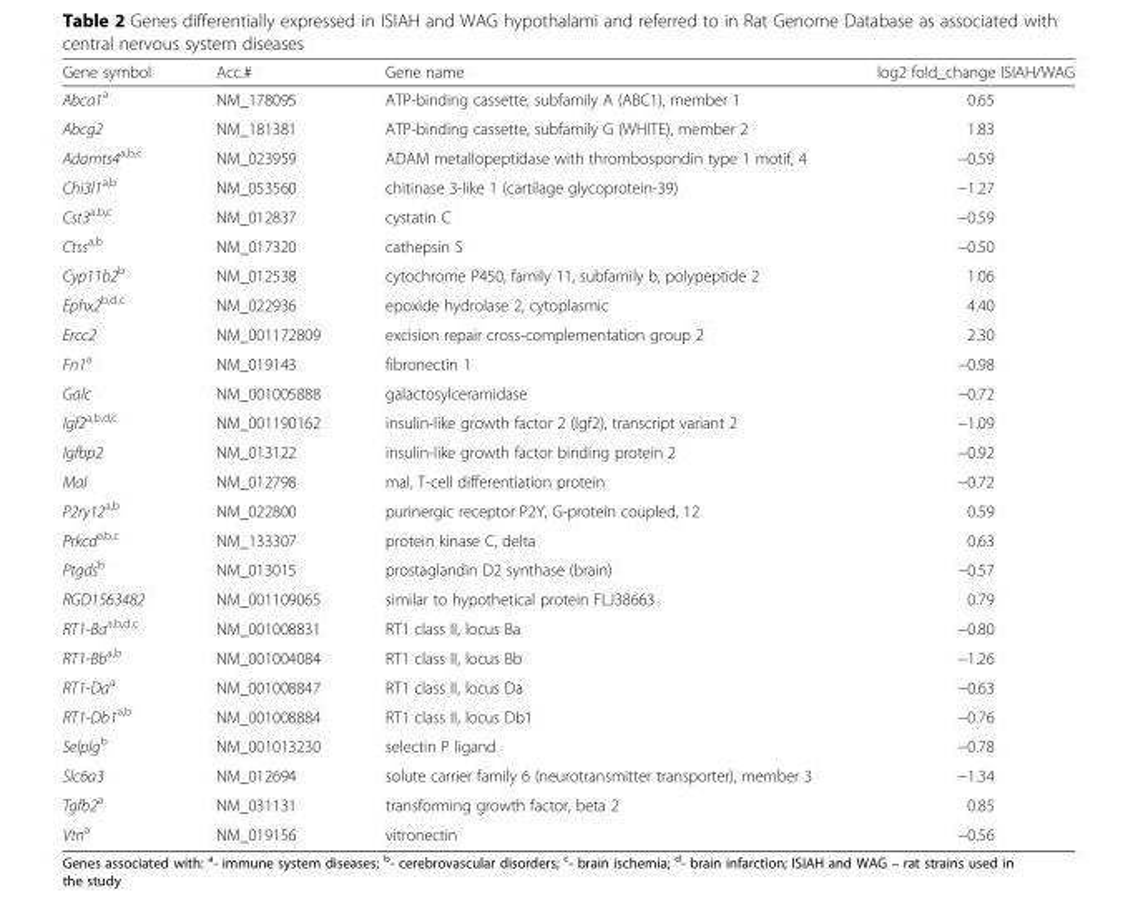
<table><thead><tr><td>Gene symbol</td><td>Acc.#</td><td>Gene name</td><td>log2 fold_change ISIAH/WAG</td></tr></thead><tbody><tr><td>Abca1<sup>a</sup></td><td>NM_178095</td><td>ATP-binding cassette, subfamily A (ABC1), member 1</td><td>0.65</td></tr><tr><td>Abcg2</td><td>NM_181381</td><td>ATP-binding cassette, subfamily G (WHITE), member 2</td><td>1.83</td></tr><tr><td>Adamts4<sup>a,b,c</sup></td><td>NM_023959</td><td>ADAM metallopeptidase with thrombospondin type 1 motif, 4</td><td>−0.59</td></tr><tr><td>Chi3l1<sup>a,b</sup></td><td>NM_053560</td><td>chitinase 3-like 1 (cartilage glycoprotein-39)</td><td>−1.27</td></tr><tr><td>Cst3<sup>a,b,c</sup></td><td>NM_012837</td><td>cystatin C</td><td>−0.59</td></tr><tr><td>Ctss<sup>a,b</sup></td><td>NM_017320</td><td>cathepsin S</td><td>−0.50</td></tr><tr><td>Cyp11b2<sup>b</sup></td><td>NM_012538</td><td>cytochrome P450, family 11, subfamily b, polypeptide 2</td><td>1.06</td></tr><tr><td>Ephx2<sup>b,d,c</sup></td><td>NM_022936</td><td>epoxide hydrolase 2, cytoplasmic</td><td>4.40</td></tr><tr><td>Ercc2</td><td>NM_001172809</td><td>excision repair cross-complementation group 2</td><td>2.30</td></tr><tr><td>Fn1<sup>a</sup></td><td>NM_019143</td><td>fibronectin 1</td><td>−0.98</td></tr><tr><td>Galc</td><td>NM_001005888</td><td>galactosylceramidase</td><td>−0.72</td></tr><tr><td>Igf2<sup>a,b,d,c</sup></td><td>NM_001190162</td><td>insulin-like growth factor 2 (Igf2), transcript variant 2</td><td>−1.09</td></tr><tr><td>Igfbp2</td><td>NM_013122</td><td>insulin-like growth factor binding protein 2</td><td>−0.92</td></tr><tr><td>Mal</td><td>NM_012798</td><td>mal, T-cell differentiation protein</td><td>−0.72</td></tr><tr><td>P2ry12<sup>a,b</sup></td><td>NM_022800</td><td>purinergic receptor P2Y, G-protein coupled, 12</td><td>0.59</td></tr><tr><td>Prkcd<sup>a,b,c</sup></td><td>NM_133307</td><td>protein kinase C, delta</td><td>0.63</td></tr><tr><td>Ptgds<sup>b</sup></td><td>NM_013015</td><td>prostaglandin D2 synthase (brain)</td><td>−0.57</td></tr><tr><td>RGD1563482</td><td>NM_001109065</td><td>similar to hypothetical protein FLJ38663</td><td>0.79</td></tr><tr><td>RT1-Ba<sup>a,b,d,c</sup></td><td>NM_001008831</td><td>RT1 class II, locus Ba</td><td>−0.80</td></tr><tr><td>RT1-Bb<sup>a,b</sup></td><td>NM_001004084</td><td>RT1 class II, locus Bb</td><td>−1.26</td></tr><tr><td>RT1-Da<sup>a</sup></td><td>NM_001008847</td><td>RT1 class II, locus Da</td><td>−0.63</td></tr><tr><td>RT1-Db1<sup>a,b</sup></td><td>NM_001008884</td><td>RT1 class II, locus Db1</td><td>−0.76</td></tr><tr><td>Selplg<sup>b</sup></td><td>NM_001013230</td><td>selectin P ligand</td><td>−0.78</td></tr><tr><td>Slc6a3</td><td>NM_012694</td><td>solute carrier family 6 (neurotransmitter transporter), member 3</td><td>−1.34</td></tr><tr><td>Tgfb2<sup>a</sup></td><td>NM_031131</td><td>transforming growth factor, beta 2</td><td>0.85</td></tr><tr><td>Vtn<sup>a</sup></td><td>NM_019156</td><td>vitronectin</td><td>−0.56</td></tr></tbody></table>